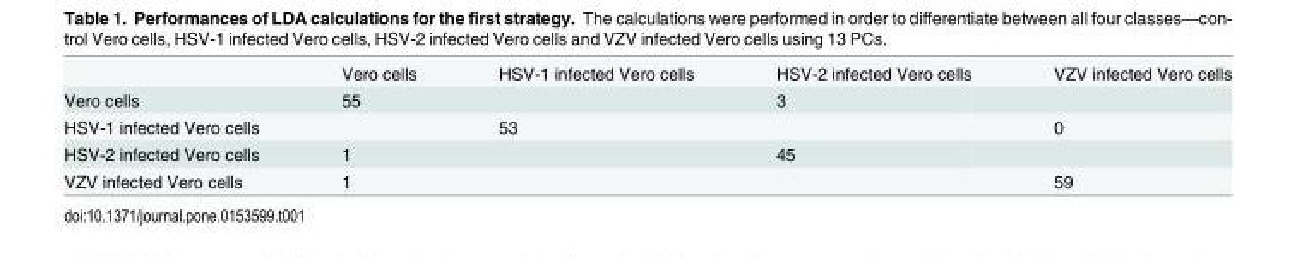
<table><thead><tr><td></td><td>Vero cells</td><td>HSV-1 infected Vero cells</td><td>HSV-2 infected Vero cells</td><td>VZV infected Vero cells</td></tr></thead><tbody><tr><td>Vero cells</td><td>55</td><td></td><td>3</td><td></td></tr><tr><td>HSV-1 infected Vero cells</td><td></td><td>53</td><td></td><td>0</td></tr><tr><td>HSV-2 infected Vero cells</td><td>1</td><td></td><td>45</td><td></td></tr><tr><td>VZV infected Vero cells</td><td>1</td><td></td><td></td><td>59</td></tr></tbody></table>